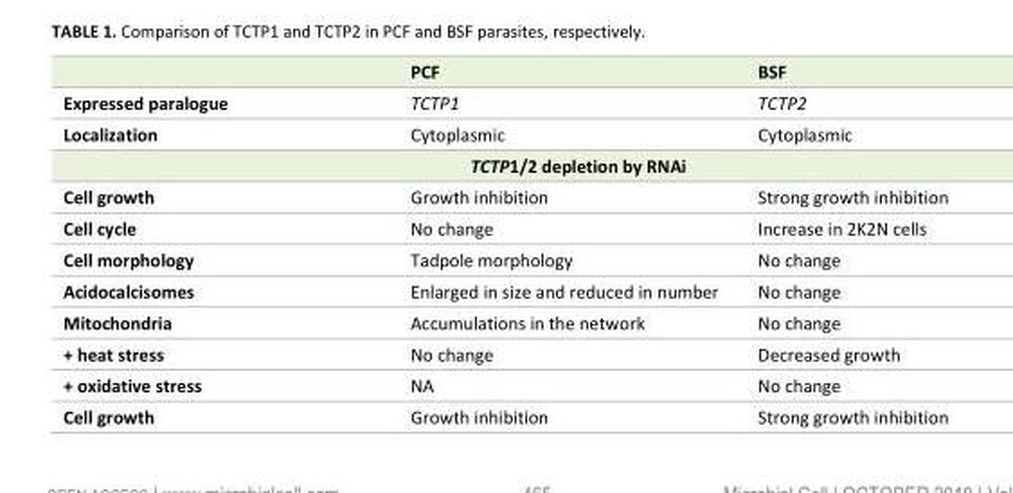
<table><thead><tr><td></td><td>PCF</td><td>BSF</td></tr></thead><tbody><tr><td>Expressed paralogue</td><td>TCTP1</td><td>TCTP2</td></tr><tr><td>Localization</td><td>Cytoplasmic</td><td>Cytoplasmic</td></tr><tr><td colspan="3">TCTP1/2 depletion by RNAi</td></tr><tr><td>Cell growth</td><td>Growth inhibition</td><td>Strong growth inhibition</td></tr><tr><td>Cell cycle</td><td>No change</td><td>Increase in 2K2N cells</td></tr><tr><td>Cell morphology</td><td>Tadpole morphology</td><td>No change</td></tr><tr><td>Acidocalcisomes</td><td>Enlarged in size and reduced in number</td><td>No change</td></tr><tr><td>Mitochondria</td><td>Accumulations in the network</td><td>No change</td></tr><tr><td>+ heat stress</td><td>No change</td><td>Decreased growth</td></tr><tr><td>+ oxidative stress</td><td>NA</td><td>No change</td></tr><tr><td>Cell growth</td><td>Growth inhibition</td><td>Strong growth inhibition</td></tr></tbody></table>